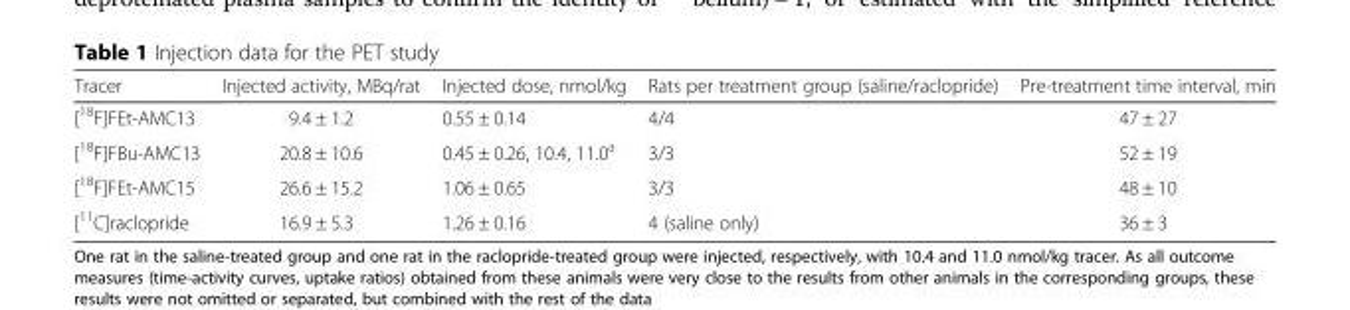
<table><thead><tr><td>Tracer</td><td>Injected activity, MBq/rat</td><td>Injected dose, nmol/kg</td><td>Rats per treatment group (saline/raclopride)</td><td>Pre-treatment time interval, min</td></tr></thead><tbody><tr><td>[<sup>18</sup>F]FEt-AMC13</td><td>9.4 ± 1.2</td><td>0.55 ± 0.14</td><td>4/4</td><td>47 ± 27</td></tr><tr><td>[<sup>18</sup>F]FBu-AMC13</td><td>20.8 ± 10.6</td><td>0.45 ± 0.26, 10.4, 11.0<sup>a</sup></td><td>3/3</td><td>52 ± 19</td></tr><tr><td>[<sup>18</sup>F]FEt-AMC15</td><td>26.6 ± 15.2</td><td>1.06 ± 0.65</td><td>3/3</td><td>48 ± 10</td></tr><tr><td>[<sup>11</sup>C]raclopride</td><td>16.9 ± 5.3</td><td>1.26 ± 0.16</td><td>4 (saline only)</td><td>36 ± 3</td></tr></tbody></table>